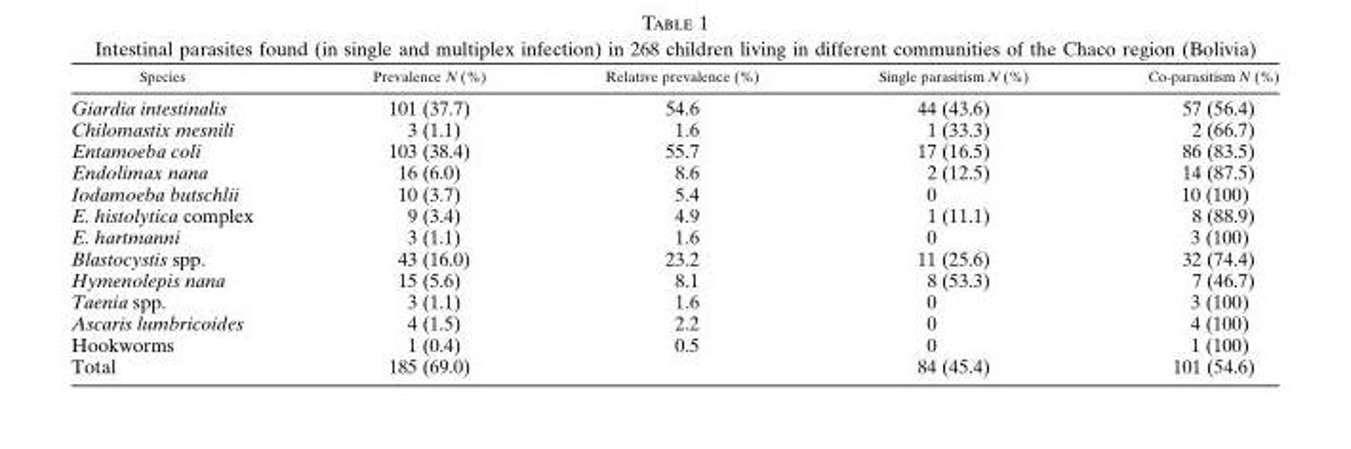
<table><thead><tr><td>Species</td><td>Prevalence N (%)</td><td>Relative prevalence (%)</td><td>Single parasitism N (%)</td><td>Co-parasitism N (%)</td></tr></thead><tbody><tr><td>Giardia intestinalis</td><td>101 (37.7)</td><td>54.6</td><td>44 (43.6)</td><td>57 (56.4)</td></tr><tr><td>Chilomastix mesnili</td><td>3 (1.1)</td><td>1.6</td><td>1 (33.3)</td><td>2 (66.7)</td></tr><tr><td>Entamoeba coli</td><td>103 (38.4)</td><td>55.7</td><td>17 (16.5)</td><td>86 (83.5)</td></tr><tr><td>Endolimax nana</td><td>16 (6.0)</td><td>8.6</td><td>2 (12.5)</td><td>14 (87.5)</td></tr><tr><td>Iodamoeba butschlii</td><td>10 (3.7)</td><td>5.4</td><td>0</td><td>10 (100)</td></tr><tr><td>E. histolytica complex</td><td>9 (3.4)</td><td>4.9</td><td>1 (11.1)</td><td>8 (88.9)</td></tr><tr><td>E. hartmanni</td><td>3 (1.1)</td><td>1.6</td><td>0</td><td>3 (100)</td></tr><tr><td>Blastocystis spp.</td><td>43 (16.0)</td><td>23.2</td><td>11 (25.6)</td><td>32 (74.4)</td></tr><tr><td>Hymenolepis nana</td><td>15 (5.6)</td><td>8.1</td><td>8 (53.3)</td><td>7 (46.7)</td></tr><tr><td>Taenia spp.</td><td>3 (1.1)</td><td>1.6</td><td>0</td><td>3 (100)</td></tr><tr><td>Ascaris lumbricoides</td><td>4 (1.5)</td><td>2.2</td><td>0</td><td>4 (100)</td></tr><tr><td>Hookworms</td><td>1 (0.4)</td><td>0.5</td><td>0</td><td>1 (100)</td></tr><tr><td>Total</td><td>185 (69.0)</td><td></td><td>84 (45.4)</td><td>101 (54.6)</td></tr></tbody></table>